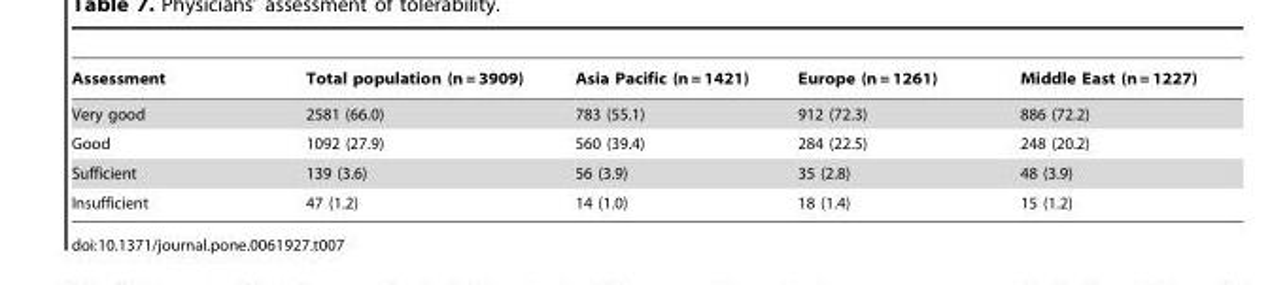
<table><thead><tr><td>Assessment</td><td>Total population (n = 3909)</td><td>Asia Pacific (n = 1421)</td><td>Europe (n = 1261)</td><td>Middle East (n = 1227)</td></tr></thead><tbody><tr><td>Very good</td><td>2581 (66.0)</td><td>783 (55.1)</td><td>912 (72.3)</td><td>886 (72.2)</td></tr><tr><td>Good</td><td>1092 (27.9)</td><td>560 (39.4)</td><td>284 (22.5)</td><td>248 (20.2)</td></tr><tr><td>Sufficient</td><td>139 (3.6)</td><td>56 (3.9)</td><td>35 (2.8)</td><td>48 (3.9)</td></tr><tr><td>Insufficient</td><td>47 (1.2)</td><td>14 (1.0)</td><td>18 (1.4)</td><td>15 (1.2)</td></tr></tbody></table>